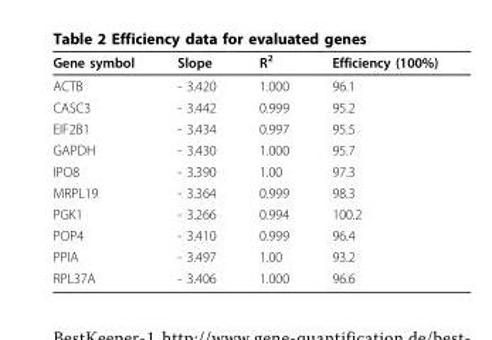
<table><thead><tr><td>Gene symbol</td><td>Slope</td><td>R<sup>2</sup></td><td>Efficiency (100%)</td></tr></thead><tbody><tr><td>ACTB</td><td>- 3.420</td><td>1.000</td><td>96.1</td></tr><tr><td>CASC3</td><td>- 3.442</td><td>0.999</td><td>95.2</td></tr><tr><td>EIF2B1</td><td>- 3.434</td><td>0.997</td><td>95.5</td></tr><tr><td>GAPDH</td><td>- 3.430</td><td>1.000</td><td>95.7</td></tr><tr><td>IPO8</td><td>- 3.390</td><td>1.00</td><td>97.3</td></tr><tr><td>MRPL19</td><td>- 3.364</td><td>0.999</td><td>98.3</td></tr><tr><td>PGK1</td><td>- 3.266</td><td>0.994</td><td>100.2</td></tr><tr><td>POP4</td><td>- 3.410</td><td>0.999</td><td>96.4</td></tr><tr><td>PPIA</td><td>- 3.497</td><td>1.00</td><td>93.2</td></tr><tr><td>RPL37A</td><td>- 3.406</td><td>1.000</td><td>96.6</td></tr></tbody></table>